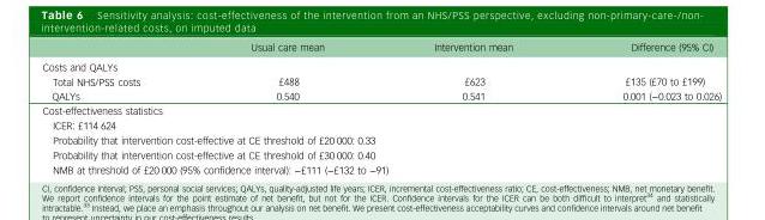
<table><thead><tr><td></td><td>Usual care mean</td><td>Intervention mean</td><td>Difference (95% CI)</td></tr></thead><tbody><tr><td colspan="4">Costs and QALYs</td></tr><tr><td>Total NHS/PSS costs</td><td>£488</td><td>£623</td><td>£135 (£70 to £199)</td></tr><tr><td>QALYs</td><td>0.540</td><td>0.541</td><td>0.001 (−0.023 to 0.026)</td></tr><tr><td colspan="4">Cost-effectiveness statistics</td></tr><tr><td colspan="4">ICER: £114 624</td></tr><tr><td colspan="4">Probability that intervention cost-effective at CE threshold of £20 000: 0.33</td></tr><tr><td colspan="4">Probability that intervention cost-effective at CE threshold of £30 000: 0.40</td></tr><tr><td colspan="4">NMB at threshold of £20 000 (95% confidence interval): −£111 (−£132 to −91)</td></tr></tbody></table>